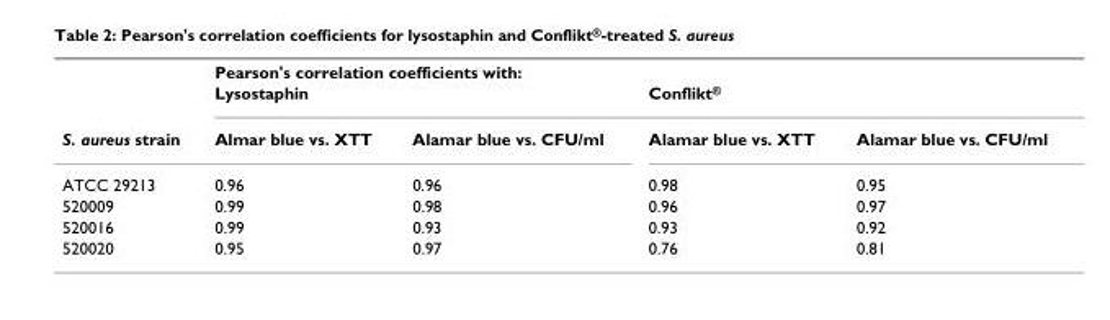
<table><thead><tr><td rowspan="2"></td><td colspan="4">Pearson&#x27;s correlation coefficients with:</td></tr><tr><td>Lysostaphin</td><td></td><td>Conflikt<sup>®</sup></td><td></td></tr></thead><tbody><tr><td>S. aureus strain</td><td>Almar blue vs. XTT</td><td>Alamar blue vs. CFU/ml</td><td>Alamar blue vs. XTT</td><td>Alamar blue vs. CFU/ml</td></tr><tr><td>ATCC 29213</td><td>0.96</td><td>0.96</td><td>0.98</td><td>0.95</td></tr><tr><td>520009</td><td>0.99</td><td>0.98</td><td>0.96</td><td>0.97</td></tr><tr><td>520016</td><td>0.99</td><td>0.93</td><td>0.93</td><td>0.92</td></tr><tr><td>520020</td><td>0.95</td><td>0.97</td><td>0.76</td><td>0.81</td></tr></tbody></table>